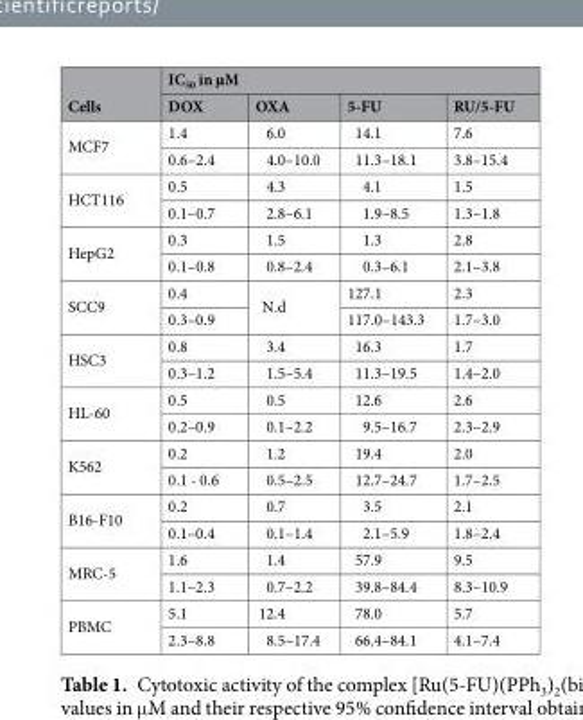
<table><thead><tr><td rowspan="2">Cells</td><td colspan="4">IC<sub>50</sub> in µM</td></tr><tr><td>DOX</td><td>OXA</td><td>5-FU</td><td>RU/5-FU</td></tr></thead><tbody><tr><td rowspan="2">MCF7</td><td>1.4</td><td>6.0</td><td>14.1</td><td>7.6</td></tr><tr><td>0.6–2.4</td><td>4.0–10.0</td><td>11.3–18.1</td><td>3.8–15.4</td></tr><tr><td rowspan="2">HCT116</td><td>0.5</td><td>4.3</td><td>4.1</td><td>1.5</td></tr><tr><td>0.1–0.7</td><td>2.8–6.1</td><td>1.9–8.5</td><td>1.3–1.8</td></tr><tr><td rowspan="2">HepG2</td><td>0.3</td><td>1.5</td><td>1.3</td><td>2.8</td></tr><tr><td>0.1–0.8</td><td>0.8–2.4</td><td>0.3–6.1</td><td>2.1–3.8</td></tr><tr><td rowspan="2">SCC9</td><td>0.4</td><td rowspan="2">N.d</td><td>127.1</td><td>2.3</td></tr><tr><td>0.3–0.9</td><td>117.0–143.3</td><td>1.7–3.0</td></tr><tr><td rowspan="2">HSC3</td><td>0.8</td><td>3.4</td><td>16.3</td><td>1.7</td></tr><tr><td>0.3–1.2</td><td>1.5–5.4</td><td>11.3–19.5</td><td>1.4–2.0</td></tr><tr><td rowspan="2">HL-60</td><td>0.5</td><td>0.5</td><td>12.6</td><td>2.6</td></tr><tr><td>0.2–0.9</td><td>0.1–2.2</td><td>9.5–16.7</td><td>2.3–2.9</td></tr><tr><td rowspan="2">K562</td><td>0.2</td><td>1.2</td><td>19.4</td><td>2.0</td></tr><tr><td>0.1 - 0.6</td><td>0.5–2.5</td><td>12.7–24.7</td><td>1.7–2.5</td></tr><tr><td rowspan="2">B16-F10</td><td>0.2</td><td>0.7</td><td>3.5</td><td>2.1</td></tr><tr><td>0.1–0.4</td><td>0.1–1.4</td><td>2.1–5.9</td><td>1.8–2.4</td></tr><tr><td rowspan="2">MRC-5</td><td>1.6</td><td>1.4</td><td>57.9</td><td>9.5</td></tr><tr><td>1.1–2.3</td><td>0.7–2.2</td><td>39.8–84.4</td><td>8.3–10.9</td></tr><tr><td rowspan="2">PBMC</td><td>5.1</td><td>12.4</td><td>78.0</td><td>5.7</td></tr><tr><td>2.3–8.8</td><td>8.5–17.4</td><td>66.4–84.1</td><td>4.1–7.4</td></tr></tbody></table>